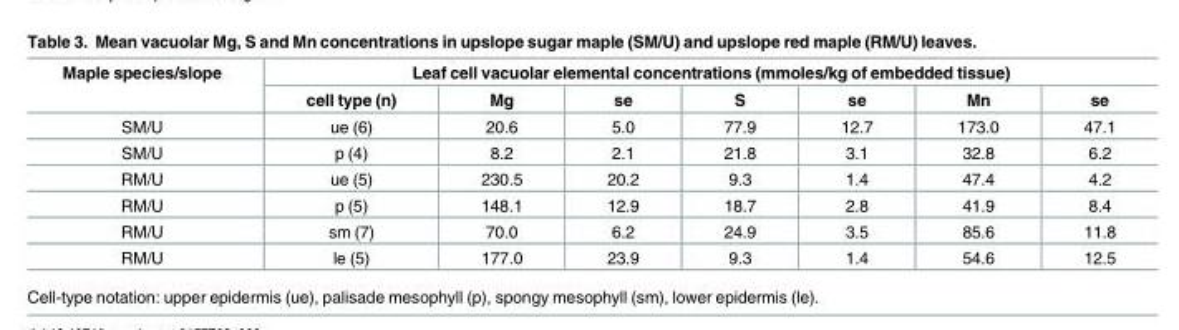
<table><thead><tr><td rowspan="2">Maple species/slope</td><td colspan="7">Leaf cell vacuolar elemental concentrations (mmoles/kg of embedded tissue)</td></tr><tr><td>cell type (n)</td><td>Mg</td><td>se</td><td>S</td><td>se</td><td>Mn</td><td>se</td></tr></thead><tbody><tr><td>SM/U</td><td>ue (6)</td><td>20.6</td><td>5.0</td><td>77.9</td><td>12.7</td><td>173.0</td><td>47.1</td></tr><tr><td>SM/U</td><td>p (4)</td><td>8.2</td><td>2.1</td><td>21.8</td><td>3.1</td><td>32.8</td><td>6.2</td></tr><tr><td>RM/U</td><td>ue (5)</td><td>230.5</td><td>20.2</td><td>9.3</td><td>1.4</td><td>47.4</td><td>4.2</td></tr><tr><td>RM/U</td><td>p (5)</td><td>148.1</td><td>12.9</td><td>18.7</td><td>2.8</td><td>41.9</td><td>8.4</td></tr><tr><td>RM/U</td><td>sm (7)</td><td>70.0</td><td>6.2</td><td>24.9</td><td>3.5</td><td>85.6</td><td>11.8</td></tr><tr><td>RM/U</td><td>le (5)</td><td>177.0</td><td>23.9</td><td>9.3</td><td>1.4</td><td>54.6</td><td>12.5</td></tr></tbody></table>